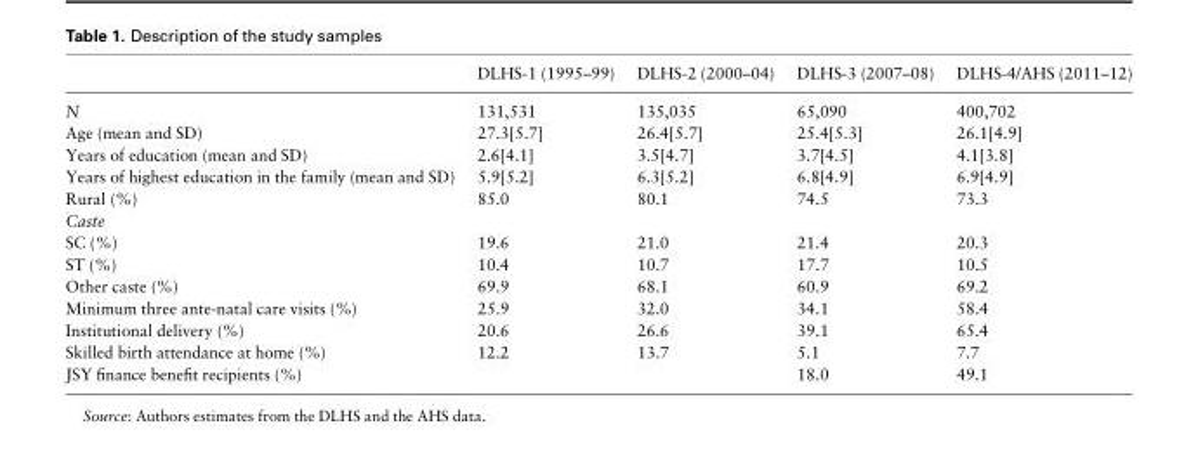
<table><thead><tr><td></td><td>DLHS-1 (1995–99)</td><td>DLHS-2 (2000–04)</td><td>DLHS-3 (2007–08)</td><td>DLHS-4/AHS (2011–12)</td></tr></thead><tbody><tr><td>N</td><td>131,531</td><td>135,035</td><td>65,090</td><td>400,702</td></tr><tr><td>Age (mean and SD)</td><td>27.3[5.7]</td><td>26.4[5.7]</td><td>25.4[5.3]</td><td>26.1[4.9]</td></tr><tr><td>Years of education (mean and SD)</td><td>2.6[4.1]</td><td>3.5[4.7]</td><td>3.7[4.5]</td><td>4.1[3.8]</td></tr><tr><td>Years of highest education in the family (mean and SD)</td><td>5.9[5.2]</td><td>6.3[5.2]</td><td>6.8[4.9]</td><td>6.9[4.9]</td></tr><tr><td>Rural (%)</td><td>85.0</td><td>80.1</td><td>74.5</td><td>73.3</td></tr><tr><td colspan="5">Caste</td></tr><tr><td>SC (%)</td><td>19.6</td><td>21.0</td><td>21.4</td><td>20.3</td></tr><tr><td>ST (%)</td><td>10.4</td><td>10.7</td><td>17.7</td><td>10.5</td></tr><tr><td>Other caste (%)</td><td>69.9</td><td>68.1</td><td>60.9</td><td>69.2</td></tr><tr><td>Minimum three ante-natal care visits (%)</td><td>25.9</td><td>32.0</td><td>34.1</td><td>58.4</td></tr><tr><td>Institutional delivery (%)</td><td>20.6</td><td>26.6</td><td>39.1</td><td>65.4</td></tr><tr><td>Skilled birth attendance at home (%)</td><td>12.2</td><td>13.7</td><td>5.1</td><td>7.7</td></tr><tr><td>JSY finance benefit recipients (%)</td><td></td><td></td><td>18.0</td><td>49.1</td></tr></tbody></table>